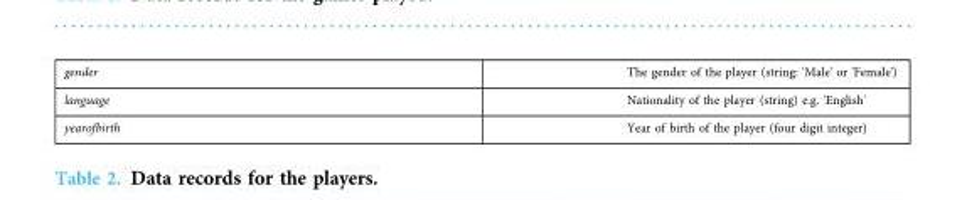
<table><tbody><tr><td>gender</td><td>The gender of the player (string: &#x27;Male&#x27; or &#x27;Female&#x27;)</td></tr><tr><td>language</td><td>Nationality of the player (string) e.g. &#x27;English&#x27;</td></tr><tr><td>yearofbirth</td><td>Year of birth of the player (four digit integer)</td></tr></tbody></table>